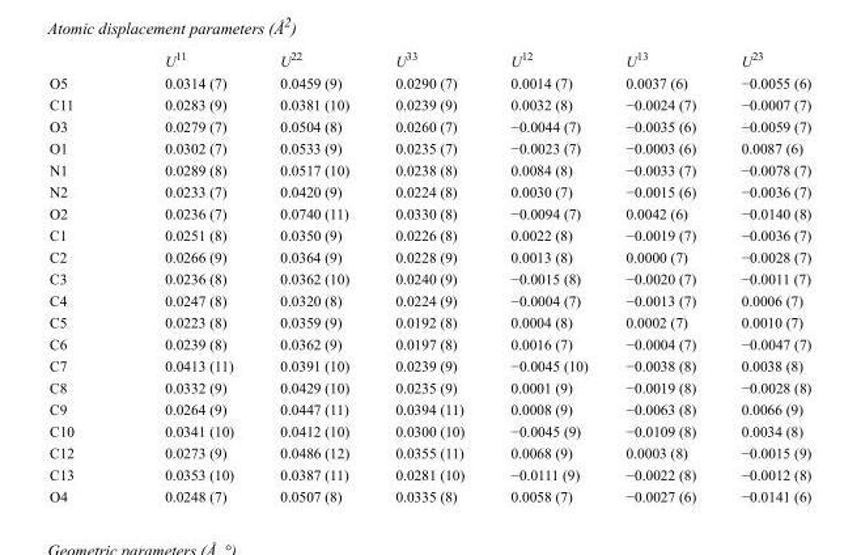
<table><thead><tr><td></td><td>U<sup>11</sup></td><td>U<sup>22</sup></td><td>U<sup>33</sup></td><td>U<sup>12</sup></td><td>U<sup>13</sup></td><td>U<sup>23</sup></td></tr></thead><tbody><tr><td>O5</td><td>0.0314 (7)</td><td>0.0459 (9)</td><td>0.0290 (7)</td><td>0.0014 (7)</td><td>0.0037 (6)</td><td>−0.0055 (6)</td></tr><tr><td>C11</td><td>0.0283 (9)</td><td>0.0381 (10)</td><td>0.0239 (9)</td><td>0.0032 (8)</td><td>−0.0024 (7)</td><td>−0.0007 (7)</td></tr><tr><td>O3</td><td>0.0279 (7)</td><td>0.0504 (8)</td><td>0.0260 (7)</td><td>−0.0044 (7)</td><td>−0.0035 (6)</td><td>−0.0059 (7)</td></tr><tr><td>O1</td><td>0.0302 (7)</td><td>0.0533 (9)</td><td>0.0235 (7)</td><td>−0.0023 (7)</td><td>−0.0003 (6)</td><td>0.0087 (6)</td></tr><tr><td>N1</td><td>0.0289 (8)</td><td>0.0517 (10)</td><td>0.0238 (8)</td><td>0.0084 (8)</td><td>−0.0033 (7)</td><td>−0.0078 (7)</td></tr><tr><td>N2</td><td>0.0233 (7)</td><td>0.0420 (9)</td><td>0.0224 (8)</td><td>0.0030 (7)</td><td>−0.0015 (6)</td><td>−0.0036 (7)</td></tr><tr><td>O2</td><td>0.0236 (7)</td><td>0.0740 (11)</td><td>0.0330 (8)</td><td>−0.0094 (7)</td><td>0.0042 (6)</td><td>−0.0140 (8)</td></tr><tr><td>C1</td><td>0.0251 (8)</td><td>0.0350 (9)</td><td>0.0226 (8)</td><td>0.0022 (8)</td><td>−0.0019 (7)</td><td>−0.0036 (7)</td></tr><tr><td>C2</td><td>0.0266 (9)</td><td>0.0364 (9)</td><td>0.0228 (9)</td><td>0.0013 (8)</td><td>0.0000 (7)</td><td>−0.0028 (7)</td></tr><tr><td>C3</td><td>0.0236 (8)</td><td>0.0362 (10)</td><td>0.0240 (9)</td><td>−0.0015 (8)</td><td>−0.0020 (7)</td><td>−0.0011 (7)</td></tr><tr><td>C4</td><td>0.0247 (8)</td><td>0.0320 (8)</td><td>0.0224 (9)</td><td>−0.0004 (7)</td><td>−0.0013 (7)</td><td>0.0006 (7)</td></tr><tr><td>C5</td><td>0.0223 (8)</td><td>0.0359 (9)</td><td>0.0192 (8)</td><td>0.0004 (8)</td><td>0.0002 (7)</td><td>0.0010 (7)</td></tr><tr><td>C6</td><td>0.0239 (8)</td><td>0.0362 (9)</td><td>0.0197 (8)</td><td>0.0016 (7)</td><td>−0.0004 (7)</td><td>−0.0047 (7)</td></tr><tr><td>C7</td><td>0.0413 (11)</td><td>0.0391 (10)</td><td>0.0239 (9)</td><td>−0.0045 (10)</td><td>−0.0038 (8)</td><td>0.0038 (8)</td></tr><tr><td>C8</td><td>0.0332 (9)</td><td>0.0429 (10)</td><td>0.0235 (9)</td><td>0.0001 (9)</td><td>−0.0019 (8)</td><td>−0.0028 (8)</td></tr><tr><td>C9</td><td>0.0264 (9)</td><td>0.0447 (11)</td><td>0.0394 (11)</td><td>0.0008 (9)</td><td>−0.0063 (8)</td><td>0.0066 (9)</td></tr><tr><td>C10</td><td>0.0341 (10)</td><td>0.0412 (10)</td><td>0.0300 (10)</td><td>−0.0045 (9)</td><td>−0.0109 (8)</td><td>0.0034 (8)</td></tr><tr><td>C12</td><td>0.0273 (9)</td><td>0.0486 (12)</td><td>0.0355 (11)</td><td>0.0068 (9)</td><td>0.0003 (8)</td><td>−0.0015 (9)</td></tr><tr><td>C13</td><td>0.0353 (10)</td><td>0.0387 (11)</td><td>0.0281 (10)</td><td>−0.0111 (9)</td><td>−0.0022 (8)</td><td>−0.0012 (8)</td></tr><tr><td>O4</td><td>0.0248 (7)</td><td>0.0507 (8)</td><td>0.0335 (8)</td><td>0.0058 (7)</td><td>−0.0027 (6)</td><td>−0.0141 (6)</td></tr></tbody></table>